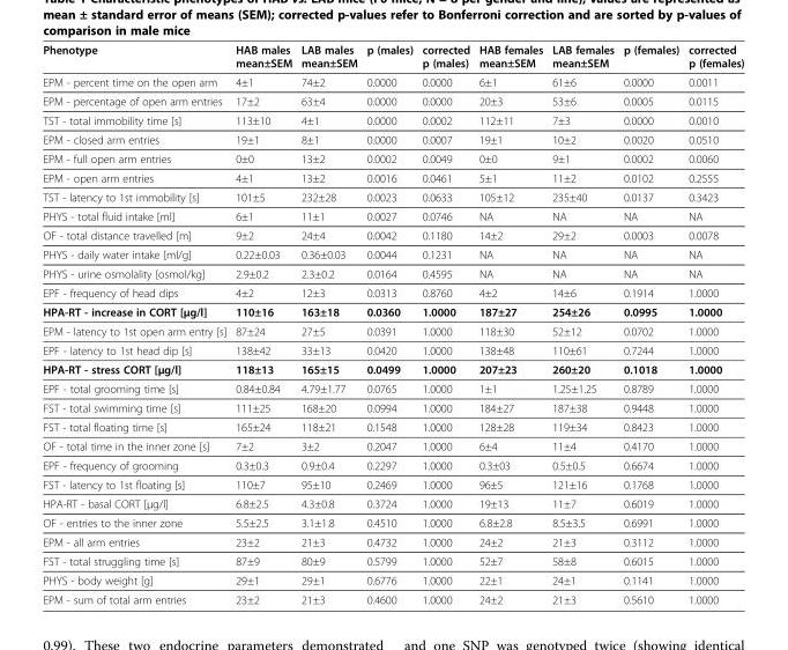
<table><thead><tr><td>Phenotype</td><td>HAB males mean±SEM</td><td>LAB males mean±SEM</td><td>p (males)</td><td>corrected p (males)</td><td>HAB females mean±SEM</td><td>LAB females mean±SEM</td><td>p (females)</td><td>corrected p (females)</td></tr></thead><tbody><tr><td>EPM - percent time on the open arm</td><td>4±1</td><td>74±2</td><td>0.0000</td><td>0.0000</td><td>6±1</td><td>61±6</td><td>0.0000</td><td>0.0011</td></tr><tr><td>EPM - percentage of open arm entries</td><td>17±2</td><td>63±4</td><td>0.0000</td><td>0.0000</td><td>20±3</td><td>53±6</td><td>0.0005</td><td>0.0115</td></tr><tr><td>TST - total immobility time [s]</td><td>113±10</td><td>4±1</td><td>0.0000</td><td>0.0002</td><td>112±11</td><td>7±3</td><td>0.0000</td><td>0.0010</td></tr><tr><td>EPM - closed arm entries</td><td>19±1</td><td>8±1</td><td>0.0000</td><td>0.0007</td><td>19±1</td><td>10±2</td><td>0.0020</td><td>0.0510</td></tr><tr><td>EPM - full open arm entries</td><td>0±0</td><td>13±2</td><td>0.0002</td><td>0.0049</td><td>0±0</td><td>9±1</td><td>0.0002</td><td>0.0060</td></tr><tr><td>EPM - open arm entries</td><td>4±1</td><td>13±2</td><td>0.0016</td><td>0.0461</td><td>5±1</td><td>11±2</td><td>0.0102</td><td>0.2555</td></tr><tr><td>TST - latency to 1st immobility [s]</td><td>101±5</td><td>232±28</td><td>0.0023</td><td>0.0633</td><td>105±12</td><td>235±40</td><td>0.0137</td><td>0.3423</td></tr><tr><td>PHYS - total fluid intake [ml]</td><td>6±1</td><td>11±1</td><td>0.0027</td><td>0.0746</td><td>NA</td><td>NA</td><td>NA</td><td>NA</td></tr><tr><td>OF - total distance travelled [m]</td><td>9±2</td><td>24±4</td><td>0.0042</td><td>0.1180</td><td>14±2</td><td>29±2</td><td>0.0003</td><td>0.0078</td></tr><tr><td>PHYS - daily water intake [ml/g]</td><td>0.22±0.03</td><td>0.36±0.03</td><td>0.0044</td><td>0.1231</td><td>NA</td><td>NA</td><td>NA</td><td>NA</td></tr><tr><td>PHYS - urine osmolality [osmol/kg]</td><td>2.9±0.2</td><td>2.3±0.2</td><td>0.0164</td><td>0.4595</td><td>NA</td><td>NA</td><td>NA</td><td>NA</td></tr><tr><td>EPF - frequency of head dips</td><td>4±2</td><td>12±3</td><td>0.0313</td><td>0.8760</td><td>4±2</td><td>14±6</td><td>0.1914</td><td>1.0000</td></tr><tr><td>HPA-RT - increase in CORT [μg/l]</td><td>110±16</td><td>163±18</td><td>0.0360</td><td>1.0000</td><td>187±27</td><td>254±26</td><td>0.0995</td><td>1.0000</td></tr><tr><td>EPM - latency to 1st open arm entry [s]</td><td>87±24</td><td>27±5</td><td>0.0391</td><td>1.0000</td><td>118±30</td><td>52±12</td><td>0.0702</td><td>1.0000</td></tr><tr><td>EPF - latency to 1st head dip [s]</td><td>138±42</td><td>33±13</td><td>0.0420</td><td>1.0000</td><td>138±48</td><td>110±61</td><td>0.7244</td><td>1.0000</td></tr><tr><td>HPA-RT - stress CORT [μg/l]</td><td>118±13</td><td>165±15</td><td>0.0499</td><td>1.0000</td><td>207±23</td><td>260±20</td><td>0.1018</td><td>1.0000</td></tr><tr><td>EPF - total grooming time [s]</td><td>0.84±0.84</td><td>4.79±1.77</td><td>0.0765</td><td>1.0000</td><td>1±1</td><td>1.25±1.25</td><td>0.8789</td><td>1.0000</td></tr><tr><td>FST - total swimming time [s]</td><td>111±25</td><td>168±20</td><td>0.0994</td><td>1.0000</td><td>184±27</td><td>187±38</td><td>0.9448</td><td>1.0000</td></tr><tr><td>FST - total floating time [s]</td><td>165±24</td><td>118±21</td><td>0.1548</td><td>1.0000</td><td>128±28</td><td>119±34</td><td>0.8423</td><td>1.0000</td></tr><tr><td>OF - total time in the inner zone [s]</td><td>7±2</td><td>3±2</td><td>0.2047</td><td>1.0000</td><td>6±4</td><td>11±4</td><td>0.4170</td><td>1.0000</td></tr><tr><td>EPF - frequency of grooming</td><td>0.3±0.3</td><td>0.9±0.4</td><td>0.2297</td><td>1.0000</td><td>0.3±03</td><td>0.5±0.5</td><td>0.6674</td><td>1.0000</td></tr><tr><td>FST - latency to 1st floating [s]</td><td>110±7</td><td>95±10</td><td>0.2469</td><td>1.0000</td><td>96±5</td><td>121±16</td><td>0.1768</td><td>1.0000</td></tr><tr><td>HPA-RT - basal CORT [μg/l]</td><td>6.8±2.5</td><td>4.3±0.8</td><td>0.3724</td><td>1.0000</td><td>19±13</td><td>11±7</td><td>0.6019</td><td>1.0000</td></tr><tr><td>OF - entries to the inner zone</td><td>5.5±2.5</td><td>3.1±1.8</td><td>0.4510</td><td>1.0000</td><td>6.8±2.8</td><td>8.5±3.5</td><td>0.6991</td><td>1.0000</td></tr><tr><td>EPM - all arm entries</td><td>23±2</td><td>21±3</td><td>0.4732</td><td>1.0000</td><td>24±2</td><td>21±3</td><td>0.3112</td><td>1.0000</td></tr><tr><td>FST - total struggling time [s]</td><td>87±9</td><td>80±9</td><td>0.5799</td><td>1.0000</td><td>52±7</td><td>58±8</td><td>0.6015</td><td>1.0000</td></tr><tr><td>PHYS - body weight [g]</td><td>29±1</td><td>29±1</td><td>0.6776</td><td>1.0000</td><td>22±1</td><td>24±1</td><td>0.1141</td><td>1.0000</td></tr><tr><td>EPM - sum of total arm entries</td><td>23±2</td><td>21±3</td><td>0.4600</td><td>1.0000</td><td>24±2</td><td>21±3</td><td>0.5610</td><td>1.0000</td></tr></tbody></table>